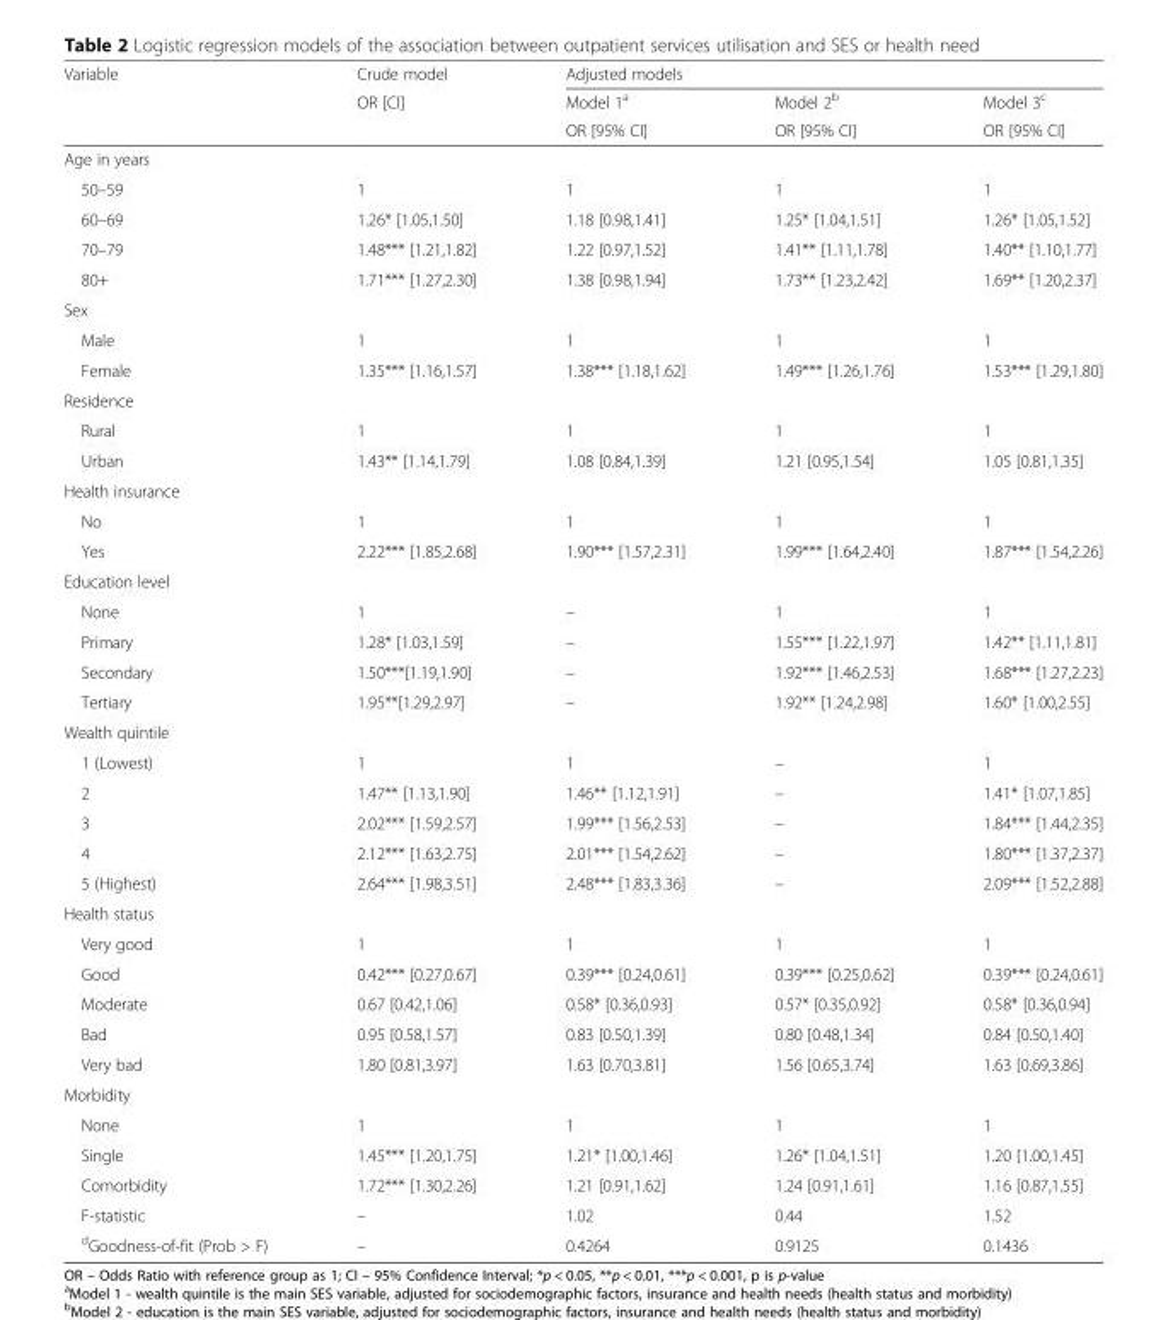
<table><thead><tr><td rowspan="3">Variable</td><td rowspan="3">Crude model OR [CI]</td><td colspan="3">Adjusted models</td></tr><tr><td rowspan="2">Model 1<sup>a</sup> OR [95% CI]</td><td rowspan="2">Model 2<sup>b</sup> OR [95% CI]</td><td rowspan="2">Model 3<sup>c</sup> OR [95% CI]</td></tr><tr></tr></thead><tbody><tr><td colspan="5">Age in years</td></tr><tr><td>50–59</td><td>1</td><td>1</td><td>1</td><td>1</td></tr><tr><td>60–69</td><td>1.26* [1.05,1.50]</td><td>1.18 [0.98,1.41]</td><td>1.25* [1.04,1.51]</td><td>1.26* [1.05,1.52]</td></tr><tr><td>70–79</td><td>1.48*** [1.21,1.82]</td><td>1.22 [0.97,1.52]</td><td>1.41** [1.11,1.78]</td><td>1.40** [1.10,1.77]</td></tr><tr><td>80+</td><td>1.71*** [1.27,2.30]</td><td>1.38 [0.98,1.94]</td><td>1.73** [1.23,2.42]</td><td>1.69** [1.20,2.37]</td></tr><tr><td colspan="5">Sex</td></tr><tr><td>Male</td><td>1</td><td>1</td><td>1</td><td>1</td></tr><tr><td>Female</td><td>1.35*** [1.16,1.57]</td><td>1.38*** [1.18,1.62]</td><td>1.49*** [1.26,1.76]</td><td>1.53*** [1.29,1.80]</td></tr><tr><td colspan="5">Residence</td></tr><tr><td>Rural</td><td>1</td><td>1</td><td>1</td><td>1</td></tr><tr><td>Urban</td><td>1.43** [1.14,1.79]</td><td>1.08 [0.84,1.39]</td><td>1.21 [0.95,1.54]</td><td>1.05 [0.81,1.35]</td></tr><tr><td colspan="5">Health insurance</td></tr><tr><td>No</td><td>1</td><td>1</td><td>1</td><td>1</td></tr><tr><td>Yes</td><td>2.22*** [1.85,2.68]</td><td>1.90*** [1.57,2.31]</td><td>1.99*** [1.64,2.40]</td><td>1.87*** [1.54,2.26]</td></tr><tr><td colspan="5">Education level</td></tr><tr><td>None</td><td>1</td><td>–</td><td>1</td><td>1</td></tr><tr><td>Primary</td><td>1.28* [1.03,1.59]</td><td>–</td><td>1.55*** [1.22,1.97]</td><td>1.42** [1.11,1.81]</td></tr><tr><td>Secondary</td><td>1.50***[1.19,1.90]</td><td>–</td><td>1.92*** [1.46,2.53]</td><td>1.68*** [1.27,2.23]</td></tr><tr><td>Tertiary</td><td>1.95**[1.29,2.97]</td><td>–</td><td>1.92** [1.24,2.98]</td><td>1.60* [1.00,2.55]</td></tr><tr><td colspan="5">Wealth quintile</td></tr><tr><td>1 (Lowest)</td><td>1</td><td>1</td><td>–</td><td>1</td></tr><tr><td>2</td><td>1.47** [1.13,1.90]</td><td>1.46** [1.12,1.91]</td><td>–</td><td>1.41* [1.07,1.85]</td></tr><tr><td>3</td><td>2.02*** [1.59,2.57]</td><td>1.99*** [1.56,2.53]</td><td>–</td><td>1.84*** [1.44,2.35]</td></tr><tr><td>4</td><td>2.12*** [1.63,2.75]</td><td>2.01*** [1.54,2.62]</td><td>–</td><td>1.80*** [1.37,2.37]</td></tr><tr><td>5 (Highest)</td><td>2.64*** [1.98,3.51]</td><td>2.48*** [1.83,3.36]</td><td>–</td><td>2.09*** [1.52,2.88]</td></tr><tr><td colspan="5">Health status</td></tr><tr><td>Very good</td><td>1</td><td>1</td><td>1</td><td>1</td></tr><tr><td>Good</td><td>0.42*** [0.27,0.67]</td><td>0.39*** [0.24,0.61]</td><td>0.39*** [0.25,0.62]</td><td>0.39*** [0.24,0.61]</td></tr><tr><td>Moderate</td><td>0.67 [0.42,1.06]</td><td>0.58* [0.36,0.93]</td><td>0.57* [0.35,0.92]</td><td>0.58* [0.36,0.94]</td></tr><tr><td>Bad</td><td>0.95 [0.58,1.57]</td><td>0.83 [0.50,1.39]</td><td>0.80 [0.48,1.34]</td><td>0.84 [0.50,1.40]</td></tr><tr><td>Very bad</td><td>1.80 [0.81,3.97]</td><td>1.63 [0.70,3.81]</td><td>1.56 [0.65,3.74]</td><td>1.63 [0.69,3.86]</td></tr><tr><td colspan="5">Morbidity</td></tr><tr><td>None</td><td>1</td><td>1</td><td>1</td><td>1</td></tr><tr><td>Single</td><td>1.45*** [1.20,1.75]</td><td>1.21* [1.00,1.46]</td><td>1.26* [1.04,1.51]</td><td>1.20 [1.00,1.45]</td></tr><tr><td>Comorbidity</td><td>1.72*** [1.30,2.26]</td><td>1.21 [0.91,1.62]</td><td>1.24 [0.91,1.61]</td><td>1.16 [0.87,1.55]</td></tr><tr><td>F-statistic</td><td>–</td><td>1.02</td><td>0.44</td><td>1.52</td></tr><tr><td><sup>d</sup>Goodness-of-fit (Prob &gt; F)</td><td>–</td><td>0.4264</td><td>0.9125</td><td>0.1436</td></tr></tbody></table>